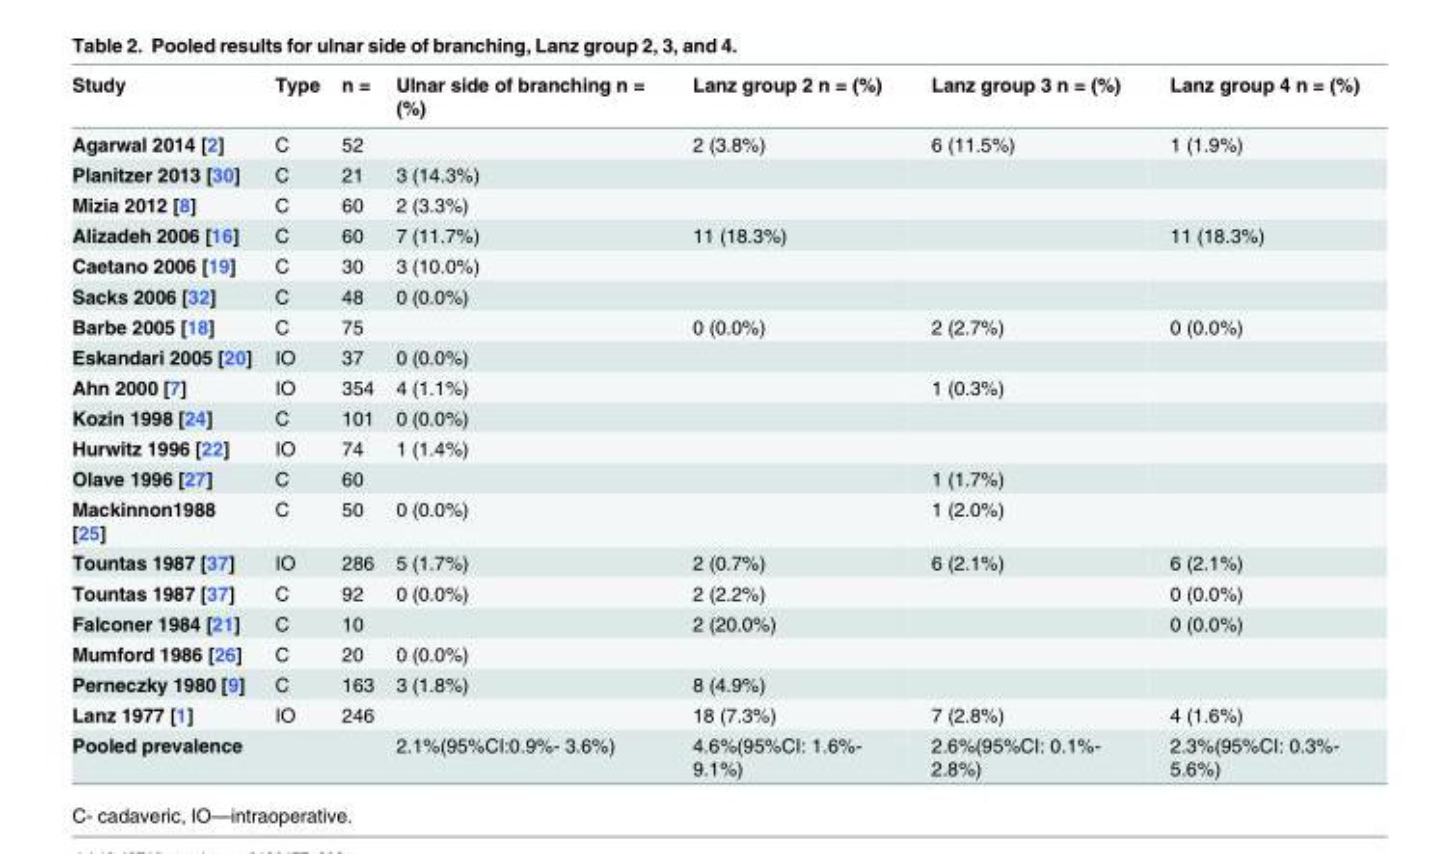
<table><thead><tr><td>Study</td><td>Type</td><td>n =</td><td>Ulnar side of branching n = (%)</td><td>Lanz group 2 n = (%)</td><td>Lanz group 3 n = (%)</td><td>Lanz group 4 n = (%)</td></tr></thead><tbody><tr><td>Agarwal 2014 [2]</td><td>C</td><td>52</td><td></td><td>2 (3.8%)</td><td>6 (11.5%)</td><td>1 (1.9%)</td></tr><tr><td>Planitzer 2013 [30]</td><td>C</td><td>21</td><td>3 (14.3%)</td><td></td><td></td><td></td></tr><tr><td>Mizia 2012 [8]</td><td>C</td><td>60</td><td>2 (3.3%)</td><td></td><td></td><td></td></tr><tr><td>Alizadeh 2006 [16]</td><td>C</td><td>60</td><td>7 (11.7%)</td><td>11 (18.3%)</td><td></td><td>11 (18.3%)</td></tr><tr><td>Caetano 2006 [19]</td><td>C</td><td>30</td><td>3 (10.0%)</td><td></td><td></td><td></td></tr><tr><td>Sacks 2006 [32]</td><td>C</td><td>48</td><td>0 (0.0%)</td><td></td><td></td><td></td></tr><tr><td>Barbe 2005 [18]</td><td>C</td><td>75</td><td></td><td>0 (0.0%)</td><td>2 (2.7%)</td><td>0 (0.0%)</td></tr><tr><td>Eskandari 2005 [20]</td><td>IO</td><td>37</td><td>0 (0.0%)</td><td></td><td></td><td></td></tr><tr><td>Ahn 2000 [7]</td><td>IO</td><td>354</td><td>4 (1.1%)</td><td></td><td>1 (0.3%)</td><td></td></tr><tr><td>Kozin 1998 [24]</td><td>C</td><td>101</td><td>0 (0.0%)</td><td></td><td></td><td></td></tr><tr><td>Hurwitz 1996 [22]</td><td>IO</td><td>74</td><td>1 (1.4%)</td><td></td><td></td><td></td></tr><tr><td>Olave 1996 [27]</td><td>C</td><td>60</td><td></td><td></td><td>1 (1.7%)</td><td></td></tr><tr><td>Mackinnon1988 [25]</td><td>C</td><td>50</td><td>0 (0.0%)</td><td></td><td>1 (2.0%)</td><td></td></tr><tr><td>Tountas 1987 [37]</td><td>IO</td><td>286</td><td>5 (1.7%)</td><td>2 (0.7%)</td><td>6 (2.1%)</td><td>6 (2.1%)</td></tr><tr><td>Tountas 1987 [37]</td><td>C</td><td>92</td><td>0 (0.0%)</td><td>2 (2.2%)</td><td></td><td>0 (0.0%)</td></tr><tr><td>Falconer 1984 [21]</td><td>C</td><td>10</td><td></td><td>2 (20.0%)</td><td></td><td>0 (0.0%)</td></tr><tr><td>Mumford 1986 [26]</td><td>C</td><td>20</td><td>0 (0.0%)</td><td></td><td></td><td></td></tr><tr><td>Perneczky 1980 [9]</td><td>C</td><td>163</td><td>3 (1.8%)</td><td>8 (4.9%)</td><td></td><td></td></tr><tr><td>Lanz 1977 [1]</td><td>IO</td><td>246</td><td></td><td>18 (7.3%)</td><td>7 (2.8%)</td><td>4 (1.6%)</td></tr><tr><td>Pooled prevalence</td><td></td><td></td><td>2.1%(95%CI:0.9%- 3.6%)</td><td>4.6%(95%CI: 1.6%- 9.1%)</td><td>2.6%(95%CI: 0.1%- 2.8%)</td><td>2.3%(95%CI: 0.3%- 5.6%)</td></tr></tbody></table>